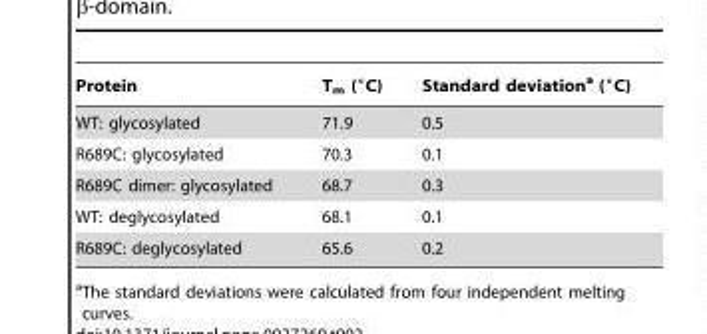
<table><thead><tr><td>Protein</td><td>T<sub>m</sub> (°C)</td><td>Standard deviation<sup>a</sup> (°C)</td></tr></thead><tbody><tr><td>WT: glycosylated</td><td>71.9</td><td>0.5</td></tr><tr><td>R689C: glycosylated</td><td>70.3</td><td>0.1</td></tr><tr><td>R689C dimer: glycosylated</td><td>68.7</td><td>0.3</td></tr><tr><td>WT: deglycosylated</td><td>68.1</td><td>0.1</td></tr><tr><td>R689C: deglycosylated</td><td>65.6</td><td>0.2</td></tr></tbody></table>